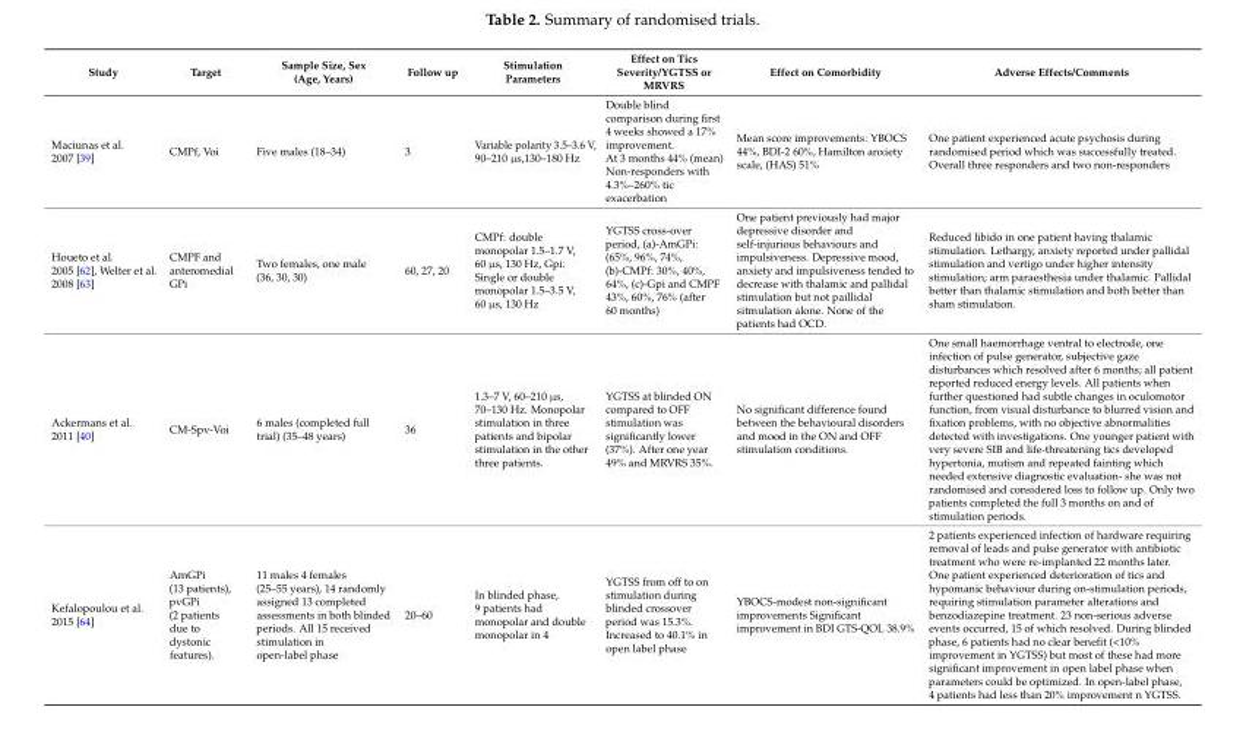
<table><thead><tr><td>Study</td><td>Target</td><td>Sample Size, Sex (Age, Years)</td><td>Follow up</td><td>Stimulation Parameters</td><td>Effect on Tics Severity/YGTSS or MRVRS</td><td>Effect on Comorbidity</td><td>Adverse Effects/Comments</td></tr></thead><tbody><tr><td>Maciunas et al. 2007 [39]</td><td>CMPf, Voi</td><td>Five males (18–34)</td><td>3</td><td>Variable polarity 3.5–3.6 V, 90–210 µs,130–180 Hz</td><td>Double blind comparison during first 4 weeks showed a 17% improvement. At 3 months 44% (mean) Non-responders with 4.3%–260% tic exacerbation</td><td>Mean score improvements: YBOCS 44%, BDI-2 60%, Hamilton anxiety scale, (HAS) 51%</td><td>One patient experienced acute psychosis during randomised period which was successfully treated. Overall three responders and two non-responders</td></tr><tr><td>Houeto et al. 2005 [62], Welter et al. 2008 [63]</td><td>CMPF and anteromedial GPi</td><td>Two females, one male (36, 30, 30)</td><td>60, 27, 20</td><td>CMPf: double monopolar 1.5–1.7 V, 60 µs, 130 Hz, Gpi: Single or double monopolar 1.5–3.5 V, 60 µs, 130 Hz</td><td>YGTSS cross-over period, (a)-AmGPi: (65%, 96%, 74%, (b)-CMPf: 30%, 40%, 64%, (c)-Gpi and CMPF 43%, 60%, 76% (after 60 months)</td><td>One patient previously had major depressive disorder and self-injurious behaviours and impulsiveness. Depressive mood, anxiety and impulsiveness tended to decrease with thalamic and pallidal stimulation but not paillidal sitmulation alone. None of the patients had OCD.</td><td>Reduced libido in one patient having thalamic stimulation. Lethargy, anxiety reported under pallidal stimulation and vertigo under higher intensity stimulation; arm paraesthesia under thalamic. Pallidal better than thalamic stimulation and both better than sham stimulation.</td></tr><tr><td>Ackermans et al. 2011 [40]</td><td>CM-Spv-Voi</td><td>6 males (completed full trial) (35–48 years)</td><td>36</td><td>1.3–7 V, 60–210 µs, 70–130 Hz. Monopolar stimulation in three patients and bipolar stimulation in the other three patients.</td><td>YGTSS at blinded ON compared to OFF stimulation was significantly lower (37%). After one year 49% and MRVRS 35%.</td><td>No significant difference found between the behavioural disorders and mood in the ON and OFF stimulation conditions.</td><td>One small haemorrhage ventral to electrode, one infection of pulse generator, subjective gaze disturbances which resolved after 6 months; all patient reported reduced energy levels. All patients when further questioned had subtle changes in oculomotor function, from visual disturbance to blurred vision and fixation problems, with no objective abnormalities detected with investigations. One younger patient with very severe SIB and life-threatening tics developed hypertonia, mutism and repeated fainting which needed extensive diagnostic evaluation- she was not randomised and considered loss to follow up. Only two patients completed the full 3 months on and of stimulation periods.</td></tr><tr><td>Kefalopoulou et al. 2015 [64]</td><td>AmGPi (13 patients), pvGPi (2 patients due to dystonic features).</td><td>11 males 4 females (25–55 years), 14 randomly assigned 13 completed assessments in both blinded periods. All 15 received stimulation in open-label phase</td><td>20–60</td><td>In blinded phase, 9 patients had monopolar and double monopolar in 4</td><td>YGTSS from off to on stimulation during blinded crossover period was 15.3%. Increased to 40.1% in open label phase</td><td>YBOCS-modest non-significant improvements Significant improvement in BDI GTS-QOL 38.9%</td><td>2 patients experienced infection of hardware requiring removal of leads and pulse generator with antibiotic treatment who were re-implanted 22 months later. One patient experienced deterioration of tics and hypomanic behaviour during on-stimulation periods, requiring stimulation parameter alterations and benzodiazepine treatment. 23 non-serious adverse events occurred, 15 of which resolved. During blinded phase, 6 patients had no clear benefit (&lt;10% improvement in YGTSS) but most of these had more significant improvement in open label phase when parameters could be optimized. In open-label phase, 4 patients had less than 20% improvement n YGTSS.</td></tr></tbody></table>